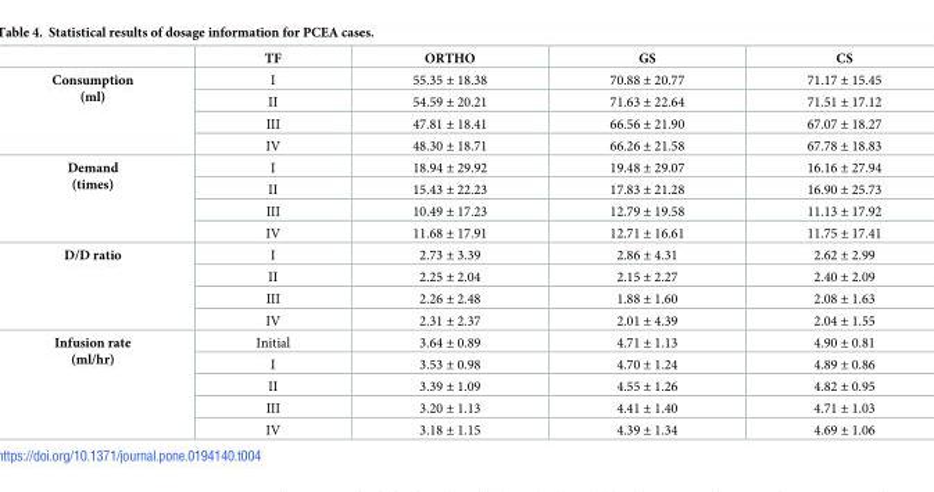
<table><thead><tr><td></td><td>TF</td><td>ORTHO</td><td>GS</td><td>CS</td></tr></thead><tbody><tr><td rowspan="4">Consumption (ml)</td><td>I</td><td>55.35 ± 18.38</td><td>70.88 ± 20.77</td><td>71.17 ± 15.45</td></tr><tr><td>II</td><td>54.59 ± 20.21</td><td>71.63 ± 22.64</td><td>71.51 ± 17.12</td></tr><tr><td>III</td><td>47.81 ± 18.41</td><td>66.56 ± 21.90</td><td>67.07 ± 18.27</td></tr><tr><td>IV</td><td>48.30 ± 18.71</td><td>66.26 ± 21.58</td><td>67.78 ± 18.83</td></tr><tr><td rowspan="4">Demand (times)</td><td>I</td><td>18.94 ± 29.92</td><td>19.48 ± 29.07</td><td>16.16 ± 27.94</td></tr><tr><td>II</td><td>15.43 ± 22.23</td><td>17.83 ± 21.28</td><td>16.90 ± 25.73</td></tr><tr><td>III</td><td>10.49 ± 17.23</td><td>12.79 ± 19.58</td><td>11.13 ± 17.92</td></tr><tr><td>IV</td><td>11.68 ± 17.91</td><td>12.71 ± 16.61</td><td>11.75 ± 17.41</td></tr><tr><td rowspan="4">D/D ratio</td><td>I</td><td>2.73 ± 3.39</td><td>2.86 ± 4.31</td><td>2.62 ± 2.99</td></tr><tr><td>II</td><td>2.25 ± 2.04</td><td>2.15 ± 2.27</td><td>2.40 ± 2.09</td></tr><tr><td>III</td><td>2.26 ± 2.48</td><td>1.88 ± 1.60</td><td>2.08 ± 1.63</td></tr><tr><td>IV</td><td>2.31 ± 2.37</td><td>2.01 ± 4.39</td><td>2.04 ± 1.55</td></tr><tr><td rowspan="5">Infusion rate (ml/hr)</td><td>Initial</td><td>3.64 ± 0.89</td><td>4.71 ± 1.13</td><td>4.90 ± 0.81</td></tr><tr><td>I</td><td>3.53 ± 0.98</td><td>4.70 ± 1.24</td><td>4.89 ± 0.86</td></tr><tr><td>II</td><td>3.39 ± 1.09</td><td>4.55 ± 1.26</td><td>4.82 ± 0.95</td></tr><tr><td>III</td><td>3.20 ± 1.13</td><td>4.41 ± 1.40</td><td>4.71 ± 1.03</td></tr><tr><td>IV</td><td>3.18 ± 1.15</td><td>4.39 ± 1.34</td><td>4.69 ± 1.06</td></tr></tbody></table>